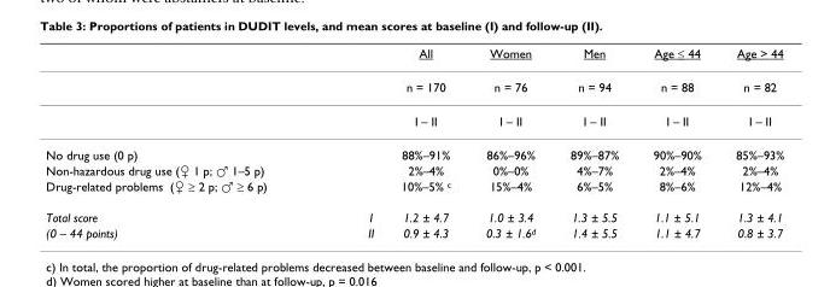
<table><thead><tr><td></td><td></td><td>All</td><td>Women</td><td>Men</td><td>Age ≤ 44</td><td>Age &gt; 44</td></tr></thead><tbody><tr><td></td><td></td><td>n = 170</td><td>n = 76</td><td>n = 94</td><td>n = 88</td><td>n = 82</td></tr><tr><td></td><td></td><td>I – II</td><td>I – II</td><td>I – II</td><td>I – II</td><td>I – II</td></tr><tr><td>No drug use (0 p)</td><td></td><td>88%–91%</td><td>86%–96%</td><td>89%–87%</td><td>90%–90%</td><td>85%–93%</td></tr><tr><td>Non-hazardous drug use (♀ 1 p; ♂ 1–5 p)</td><td></td><td>2%–4%</td><td>0%–0%</td><td>4%–7%</td><td>2%–4%</td><td>2%–4%</td></tr><tr><td>Drug-related problems (♀ ≥ 2 p; ♂ ≥ 6 p)</td><td></td><td>10%–5% <sup>c</sup></td><td>15%–4%</td><td>6%–5%</td><td>8%–6%</td><td>12%–4%</td></tr><tr><td>Total score</td><td>I</td><td>1.2 ± 4.7</td><td>1.0 ± 3.4</td><td>1.3 ± 5.5</td><td>1.1 ± 5.1</td><td>1.3 ± 4.1</td></tr><tr><td>(0 – 44 points)</td><td>II</td><td>0.9 ± 4.3</td><td>0.3 ± 1.6<sup>d</sup></td><td>1.4 ± 5.5</td><td>1.1 ± 4.7</td><td>0.8 ± 3.7</td></tr></tbody></table>